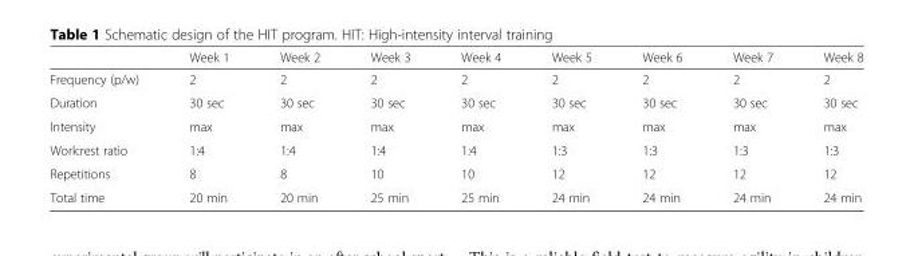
<table><thead><tr><td></td><td>Week 1</td><td>Week 2</td><td>Week 3</td><td>Week 4</td><td>Week 5</td><td>Week 6</td><td>Week 7</td><td>Week 8</td></tr></thead><tbody><tr><td>Frequency (p/w)</td><td>2</td><td>2</td><td>2</td><td>2</td><td>2</td><td>2</td><td>2</td><td>2</td></tr><tr><td>Duration</td><td>30 sec</td><td>30 sec</td><td>30 sec</td><td>30 sec</td><td>30 sec</td><td>30 sec</td><td>30 sec</td><td>30 sec</td></tr><tr><td>Intensity</td><td>max</td><td>max</td><td>max</td><td>max</td><td>max</td><td>max</td><td>max</td><td>max</td></tr><tr><td>Work:rest ratio</td><td>1:4</td><td>1:4</td><td>1:4</td><td>1:4</td><td>1:3</td><td>1:3</td><td>1:3</td><td>1:3</td></tr><tr><td>Repetitions</td><td>8</td><td>8</td><td>10</td><td>10</td><td>12</td><td>12</td><td>12</td><td>12</td></tr><tr><td>Total time</td><td>20 min</td><td>20 min</td><td>25 min</td><td>25 min</td><td>24 min</td><td>24 min</td><td>24 min</td><td>24 min</td></tr></tbody></table>